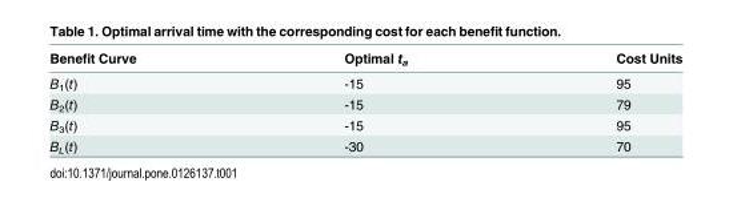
<table><thead><tr><td>Benefit Curve</td><td>Optimal t<sub>a</sub></td><td>Cost Units</td></tr></thead><tbody><tr><td>B<sub>1</sub>(t)</td><td>-15</td><td>95</td></tr><tr><td>B<sub>2</sub>(t)</td><td>-15</td><td>79</td></tr><tr><td>B<sub>3</sub>(t)</td><td>-15</td><td>95</td></tr><tr><td>B<sub>L</sub>(t)</td><td>-30</td><td>70</td></tr></tbody></table>